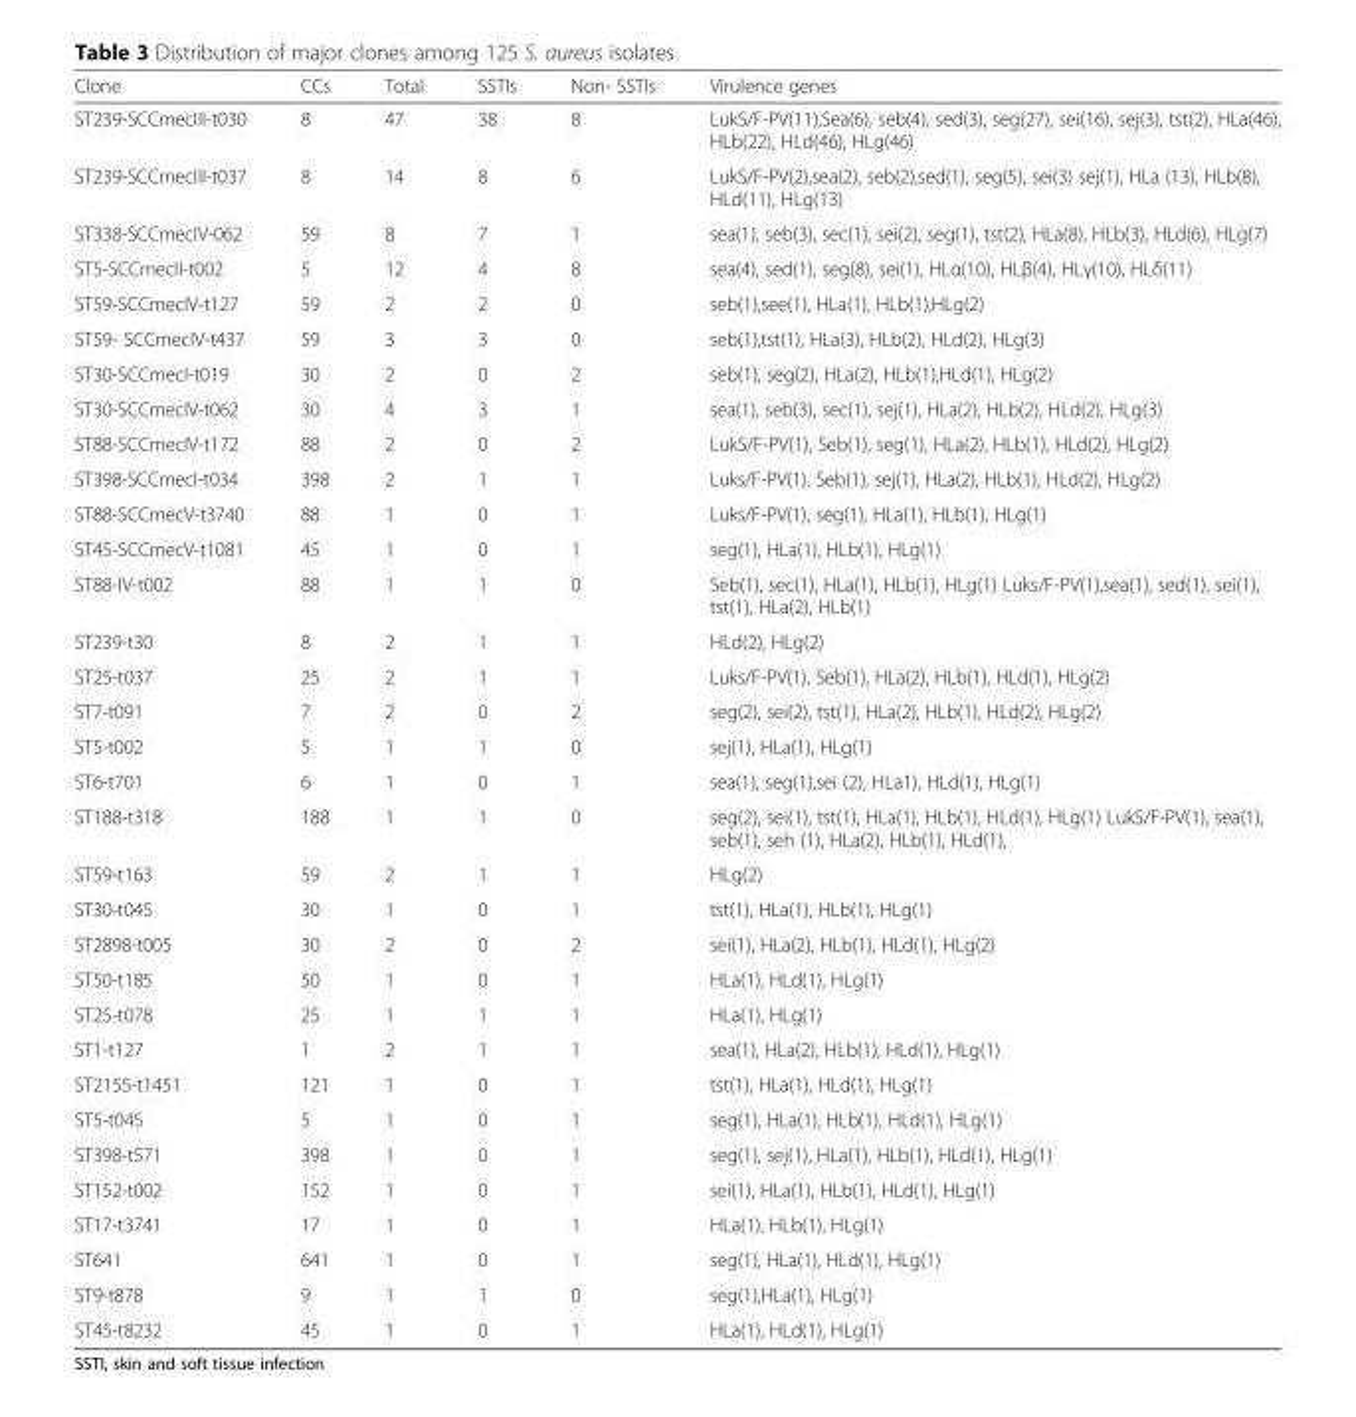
<table><thead><tr><td>Clone</td><td>CCs</td><td>Total</td><td>SSTIs</td><td>Non- SSTIs</td><td>Virulence genes</td></tr></thead><tbody><tr><td>ST239-SCCmecIII-t030</td><td>8</td><td>47</td><td>38</td><td>8</td><td>LukS/F-PV(11),Sea(6), seb(4), sed(3), seg(27), sei(16), sej(3), tst(2), HLa(46), HLb(22), HLd(46), HLg(46)</td></tr><tr><td>ST239-SCCmecIII-t037</td><td>8</td><td>14</td><td>8</td><td>6</td><td>LukS/F-PV(2),sea(2), seb(2),sed(1), seg(5), sei(3) sej(1), HLa (13), HLb(8), HLd(11), HLg(13)</td></tr><tr><td>ST338-SCCmecIV-062</td><td>59</td><td>8</td><td>7</td><td>1</td><td>sea(1), seb(3), sec(1), sei(2), seg(1), tst(2), HLa(8), HLb(3), HLd(6), HLg(7)</td></tr><tr><td>ST5-SCCmecII-t002</td><td>5</td><td>12</td><td>4</td><td>8</td><td>sea(4), sed(1), seg(8), sei(1), HLα(10), HLβ(4), HLγ(10), HLδ(11)</td></tr><tr><td>ST59-SCCmecIV-t127</td><td>59</td><td>2</td><td>2</td><td>0</td><td>seb(1),see(1), HLa(1), HLb(1),HLg(2)</td></tr><tr><td>ST59- SCCmecIV-t437</td><td>59</td><td>3</td><td>3</td><td>0</td><td>seb(1),tst(1), HLa(3), HLb(2), HLd(2), HLg(3)</td></tr><tr><td>ST30-SCCmecI-t019</td><td>30</td><td>2</td><td>0</td><td>2</td><td>seb(1), seg(2), HLa(2), HLb(1),HLd(1), HLg(2)</td></tr><tr><td>ST30-SCCmecIV-t062</td><td>30</td><td>4</td><td>3</td><td>1</td><td>sea(1), seb(3), sec(1), sej(1), HLa(2), HLb(2), HLd(2), HLg(3)</td></tr><tr><td>ST88-SCCmecIV-t172</td><td>88</td><td>2</td><td>0</td><td>2</td><td>LukS/F-PV(1), Seb(1), seg(1), HLa(2), HLb(1), HLd(2), HLg(2)</td></tr><tr><td>ST398-SCCmecI-t034</td><td>398</td><td>2</td><td>1</td><td>1</td><td>Luks/F-PV(1), Seb(1), sej(1), HLa(2), HLb(1), HLd(2), HLg(2)</td></tr><tr><td>ST88-SCCmecV-t3740</td><td>88</td><td>1</td><td>0</td><td>1</td><td>Luks/F-PV(1), seg(1), HLa(1), HLb(1), HLg(1)</td></tr><tr><td>ST45-SCCmecV-t1081</td><td>45</td><td>1</td><td>0</td><td>1</td><td>seg(1), HLa(1), HLb(1), HLg(1)</td></tr><tr><td>ST88-IV-t002</td><td>88</td><td>1</td><td>1</td><td>0</td><td>Seb(1), sec(1), HLa(1), HLb(1), HLg(1) Luks/F-PV(1),sea(1), sed(1), sei(1), tst(1), HLa(2), HLb(1)</td></tr><tr><td>ST239-t30</td><td>8</td><td>2</td><td>1</td><td>1</td><td>HLd(2), HLg(2)</td></tr><tr><td>ST25-t037</td><td>25</td><td>2</td><td>1</td><td>1</td><td>Luks/F-PV(1), Seb(1), HLa(2), HLb(1), HLd(1), HLg(2)</td></tr><tr><td>ST7-t091</td><td>7</td><td>2</td><td>0</td><td>2</td><td>seg(2), sei(2), tst(1), HLa(2), HLb(1), HLd(2), HLg(2)</td></tr><tr><td>ST5-t002</td><td>5</td><td>1</td><td>1</td><td>0</td><td>sej(1), HLa(1), HLg(1)</td></tr><tr><td>ST6-t701</td><td>6</td><td>1</td><td>0</td><td>1</td><td>sea(1), seg(1),sei (2), HLa1), HLd(1), HLg(1)</td></tr><tr><td>ST188-t318</td><td>188</td><td>1</td><td>1</td><td>0</td><td>seg(2), sei(1), tst(1), HLa(1), HLb(1), HLd(1), HLg(1) LukS/F-PV(1), sea(1), seb(1), seh (1), HLa(2), HLb(1), HLd(1),</td></tr><tr><td>ST59-t163</td><td>59</td><td>2</td><td>1</td><td>1</td><td>HLg(2)</td></tr><tr><td>ST30-t045</td><td>30</td><td>1</td><td>0</td><td>1</td><td>tst(1), HLa(1), HLb(1), HLg(1)</td></tr><tr><td>ST2898-t005</td><td>30</td><td>2</td><td>0</td><td>2</td><td>sei(1), HLa(2), HLb(1), HLd(1), HLg(2)</td></tr><tr><td>ST50-t185</td><td>50</td><td>1</td><td>0</td><td>1</td><td>HLa(1), HLd(1), HLg(1)</td></tr><tr><td>ST25-t078</td><td>25</td><td>1</td><td>1</td><td>1</td><td>HLa(1), HLg(1)</td></tr><tr><td>ST1-t127</td><td>1</td><td>2</td><td>1</td><td>1</td><td>sea(1), HLa(2), HLb(1), HLd(1), HLg(1)</td></tr><tr><td>ST2155-t1451</td><td>121</td><td>1</td><td>0</td><td>1</td><td>tst(1), HLa(1), HLd(1), HLg(1)</td></tr><tr><td>ST5-t045</td><td>5</td><td>1</td><td>0</td><td>1</td><td>seg(1), HLa(1), HLb(1), HLd(1), HLg(1)</td></tr><tr><td>ST398-t571</td><td>398</td><td>1</td><td>0</td><td>1</td><td>seg(1), sej(1), HLa(1), HLb(1), HLd(1), HLg(1)</td></tr><tr><td>ST152-t002</td><td>152</td><td>1</td><td>0</td><td>1</td><td>sei(1), HLa(1), HLb(1), HLd(1), HLg(1)</td></tr><tr><td>ST17-t3741</td><td>17</td><td>1</td><td>0</td><td>1</td><td>HLa(1), HLb(1), HLg(1)</td></tr><tr><td>ST641</td><td>641</td><td>1</td><td>0</td><td>1</td><td>seg(1), HLa(1), HLd(1), HLg(1)</td></tr><tr><td>ST9-t878</td><td>9</td><td>1</td><td>1</td><td>0</td><td>seg(1),HLa(1), HLg(1)</td></tr><tr><td>ST45-t8232</td><td>45</td><td>1</td><td>0</td><td>1</td><td>HLa(1), HLd(1), HLg(1)</td></tr></tbody></table>